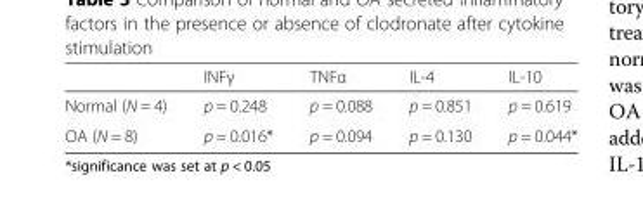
<table><thead><tr><td></td><td>INFγ</td><td>TNFα</td><td>IL-4</td><td>IL-10</td></tr></thead><tbody><tr><td>Normal (N = 4)</td><td>p = 0.248</td><td>p = 0.088</td><td>p = 0.851</td><td>p = 0.619</td></tr><tr><td>OA (N = 8)</td><td>p = 0.016*</td><td>p = 0.094</td><td>p = 0.130</td><td>p = 0.044*</td></tr></tbody></table>